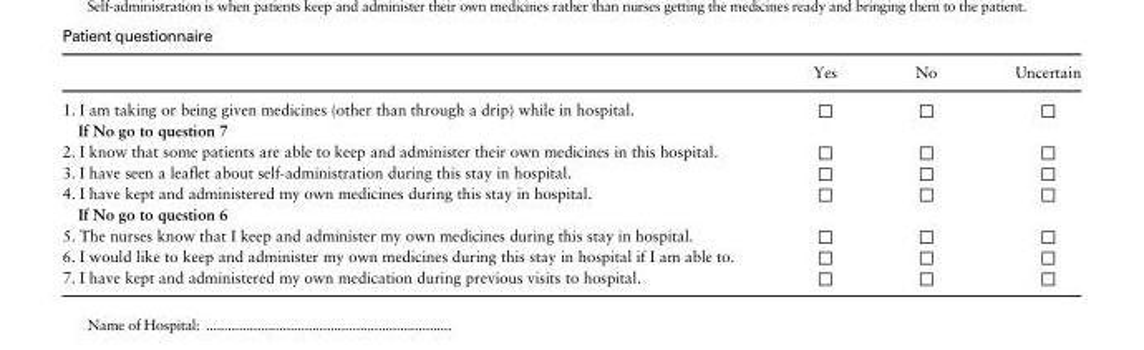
<table><thead><tr><td></td><td>Yes</td><td>No</td><td>Uncertain</td></tr></thead><tbody><tr><td>1. I am taking or being given medicines (other than through a drip) while in hospital. If No go to question 7</td><td>□</td><td>□</td><td>□</td></tr><tr><td>2. I know that some patients are able to keep and administer their own medicines in this hospital.</td><td>□</td><td>□</td><td>□</td></tr><tr><td>3. I have seen a leaflet about self-administration during this stay in hospital.</td><td>□</td><td>□</td><td>□</td></tr><tr><td>4. I have kept and administered my own medicines during this stay in hospital. If No go to question 6</td><td>□</td><td>□</td><td>□</td></tr><tr><td>5. The nurses know that I keep and administer my own medicines during this stay in hospital.</td><td>□</td><td>□</td><td>□</td></tr><tr><td>6. I would like to keep and administer my own medicines during this stay in hospital if I am able to.</td><td>□</td><td>□</td><td>□</td></tr><tr><td>7. I have kept and administered my own medication during previous visits to hospital.</td><td>□</td><td>□</td><td>□</td></tr></tbody></table>